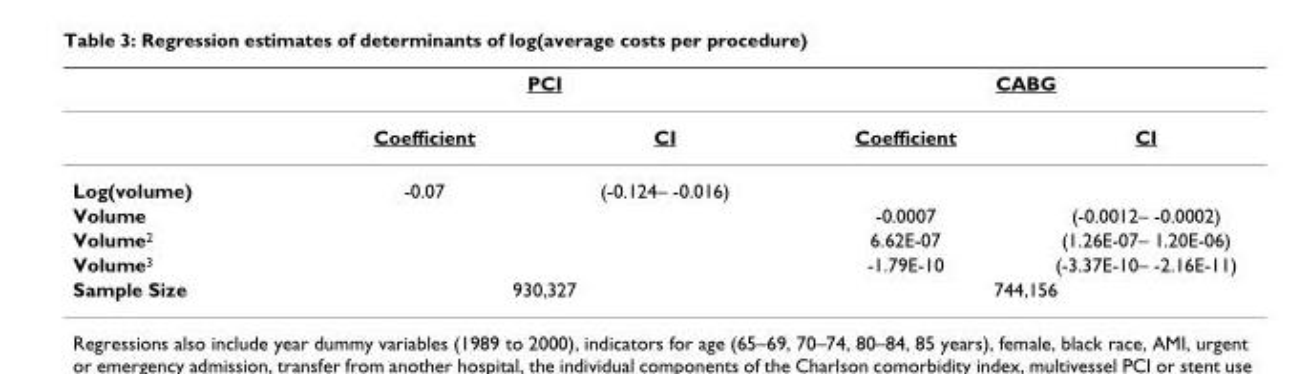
<table><thead><tr><td rowspan="2"></td><td colspan="2">PCI</td><td colspan="2">CABG</td></tr><tr><td>Coefficient</td><td>CI</td><td>Coefficient</td><td>CI</td></tr></thead><tbody><tr><td>Log(volume)</td><td>-0.07</td><td>(-0.124– -0.016)</td><td></td><td></td></tr><tr><td>Volume</td><td></td><td></td><td>-0.0007</td><td>(-0.0012– -0.0002)</td></tr><tr><td>Volume<sup>2</sup></td><td></td><td></td><td>6.62E-07</td><td>(1.26E-07– 1.20E-06)</td></tr><tr><td>Volume<sup>3</sup></td><td></td><td></td><td>-1.79E-10</td><td>(-3.37E-10– -2.16E-11)</td></tr><tr><td>Sample Size</td><td colspan="2">930,327</td><td colspan="2">744,156</td></tr></tbody></table>